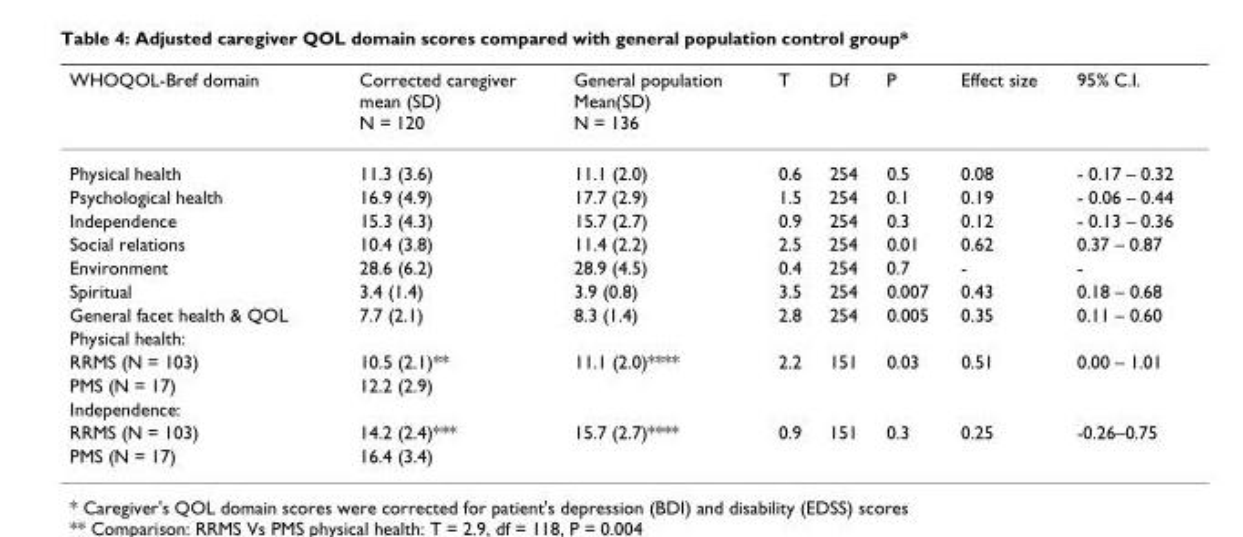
<table><thead><tr><td>WHOQOL-Bref domain</td><td>Corrected caregiver mean (SD) N = 120</td><td>General population Mean(SD) N = 136</td><td>T</td><td>Df</td><td>P</td><td>Effect size</td><td>95% C.I.</td></tr></thead><tbody><tr><td>Physical health</td><td>11.3 (3.6)</td><td>11.1 (2.0)</td><td>0.6</td><td>254</td><td>0.5</td><td>0.08</td><td>- 0.17 – 0.32</td></tr><tr><td>Psychological health</td><td>16.9 (4.9)</td><td>17.7 (2.9)</td><td>1.5</td><td>254</td><td>0.1</td><td>0.19</td><td>- 0.06 – 0.44</td></tr><tr><td>Independence</td><td>15.3 (4.3)</td><td>15.7 (2.7)</td><td>0.9</td><td>254</td><td>0.3</td><td>0.12</td><td>- 0.13 – 0.36</td></tr><tr><td>Social relations</td><td>10.4 (3.8)</td><td>11.4 (2.2)</td><td>2.5</td><td>254</td><td>0.01</td><td>0.62</td><td>0.37 – 0.87</td></tr><tr><td>Environment</td><td>28.6 (6.2)</td><td>28.9 (4.5)</td><td>0.4</td><td>254</td><td>0.7</td><td>-</td><td>-</td></tr><tr><td>Spiritual</td><td>3.4 (1.4)</td><td>3.9 (0.8)</td><td>3.5</td><td>254</td><td>0.007</td><td>0.43</td><td>0.18 – 0.68</td></tr><tr><td>General facet health &amp; QOL</td><td>7.7 (2.1)</td><td>8.3 (1.4)</td><td>2.8</td><td>254</td><td>0.005</td><td>0.35</td><td>0.11 – 0.60</td></tr><tr><td colspan="8">Physical health:</td></tr><tr><td>RRMS (N = 103)</td><td>10.5 (2.1)**</td><td>11.1 (2.0)****</td><td>2.2</td><td>151</td><td>0.03</td><td>0.51</td><td>0.00 – 1.01</td></tr><tr><td>PMS (N = 17)</td><td>12.2 (2.9)</td><td></td><td></td><td></td><td></td><td></td><td></td></tr><tr><td colspan="8">Independence:</td></tr><tr><td>RRMS (N = 103)</td><td>14.2 (2.4)***</td><td>15.7 (2.7)****</td><td>0.9</td><td>151</td><td>0.3</td><td>0.25</td><td>-0.26–0.75</td></tr><tr><td>PMS (N = 17)</td><td>16.4 (3.4)</td><td></td><td></td><td></td><td></td><td></td><td></td></tr></tbody></table>